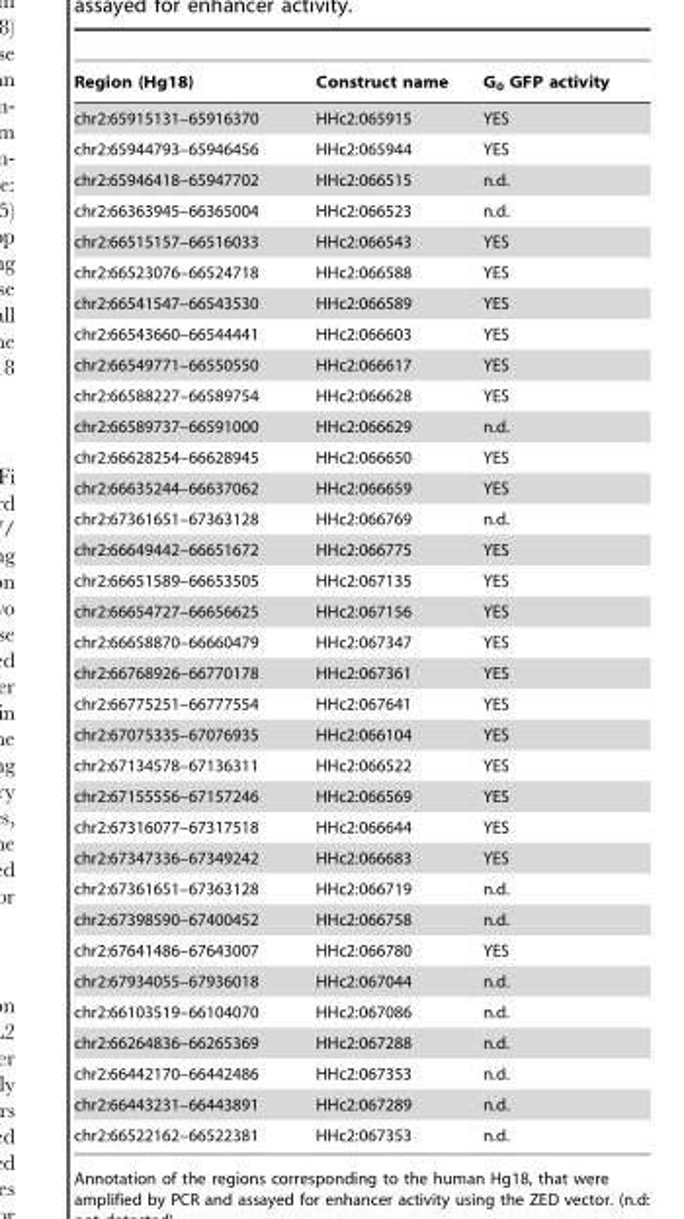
<table><thead><tr><td>Region (Hg18)</td><td>Construct name</td><td>G<sub>0</sub> GFP activity</td></tr></thead><tbody><tr><td>chr2:65915131–65916370</td><td>HHc2:065915</td><td>YES</td></tr><tr><td>chr2:65944793–65946456</td><td>HHc2:065944</td><td>YES</td></tr><tr><td>chr2:65946418–65947702</td><td>HHc2:066515</td><td>n.d.</td></tr><tr><td>chr2:66363945–66365004</td><td>HHc2:066523</td><td>n.d.</td></tr><tr><td>chr2:66515157–66516033</td><td>HHc2:066543</td><td>YES</td></tr><tr><td>chr2:66523076–66524718</td><td>HHc2:066588</td><td>YES</td></tr><tr><td>chr2:66541547–66543530</td><td>HHc2:066589</td><td>YES</td></tr><tr><td>chr2:66543660–66544441</td><td>HHc2:066603</td><td>YES</td></tr><tr><td>chr2:66549771–66550550</td><td>HHc2:066617</td><td>YES</td></tr><tr><td>chr2:66588227–66589754</td><td>HHc2:066628</td><td>YES</td></tr><tr><td>chr2:66589737–66591000</td><td>HHc2:066629</td><td>n.d.</td></tr><tr><td>chr2:66628254–66628945</td><td>HHc2:066650</td><td>YES</td></tr><tr><td>chr2:66635244–66637062</td><td>HHc2:066659</td><td>YES</td></tr><tr><td>chr2:67361651–67363128</td><td>HHc2:066769</td><td>n.d.</td></tr><tr><td>chr2:66649442–66651672</td><td>HHc2:066775</td><td>YES</td></tr><tr><td>chr2:66651589–66653505</td><td>HHc2:067135</td><td>YES</td></tr><tr><td>chr2:66654727–66656625</td><td>HHc2:067156</td><td>YES</td></tr><tr><td>chr2:66658870–66660479</td><td>HHc2:067347</td><td>YES</td></tr><tr><td>chr2:66768926–66770178</td><td>HHc2:067361</td><td>YES</td></tr><tr><td>chr2:66775251–66777554</td><td>HHc2:067641</td><td>YES</td></tr><tr><td>chr2:67075335–67076935</td><td>HHc2:066104</td><td>YES</td></tr><tr><td>chr2:67134578–67136311</td><td>HHc2:066522</td><td>YES</td></tr><tr><td>chr2:67155556–67157246</td><td>HHc2:066569</td><td>YES</td></tr><tr><td>chr2:67316077–67317518</td><td>HHc2:066644</td><td>YES</td></tr><tr><td>chr2:67347336–67349242</td><td>HHc2:066683</td><td>YES</td></tr><tr><td>chr2:67361651–67363128</td><td>HHc2:066719</td><td>n.d.</td></tr><tr><td>chr2:67398590–67400452</td><td>HHc2:066758</td><td>n.d.</td></tr><tr><td>chr2:67641486–67643007</td><td>HHc2:066780</td><td>YES</td></tr><tr><td>chr2:67934055–67936018</td><td>HHc2:067044</td><td>n.d.</td></tr><tr><td>chr2:66103519–66104070</td><td>HHc2:067086</td><td>n.d.</td></tr><tr><td>chr2:66264836–66265369</td><td>HHc2:067288</td><td>n.d.</td></tr><tr><td>chr2:66442170–66442486</td><td>HHc2:067353</td><td>n.d.</td></tr><tr><td>chr2:66443231–66443891</td><td>HHc2:067289</td><td>n.d.</td></tr><tr><td>chr2:66522162–66522381</td><td>HHc2:067353</td><td>n.d.</td></tr></tbody></table>